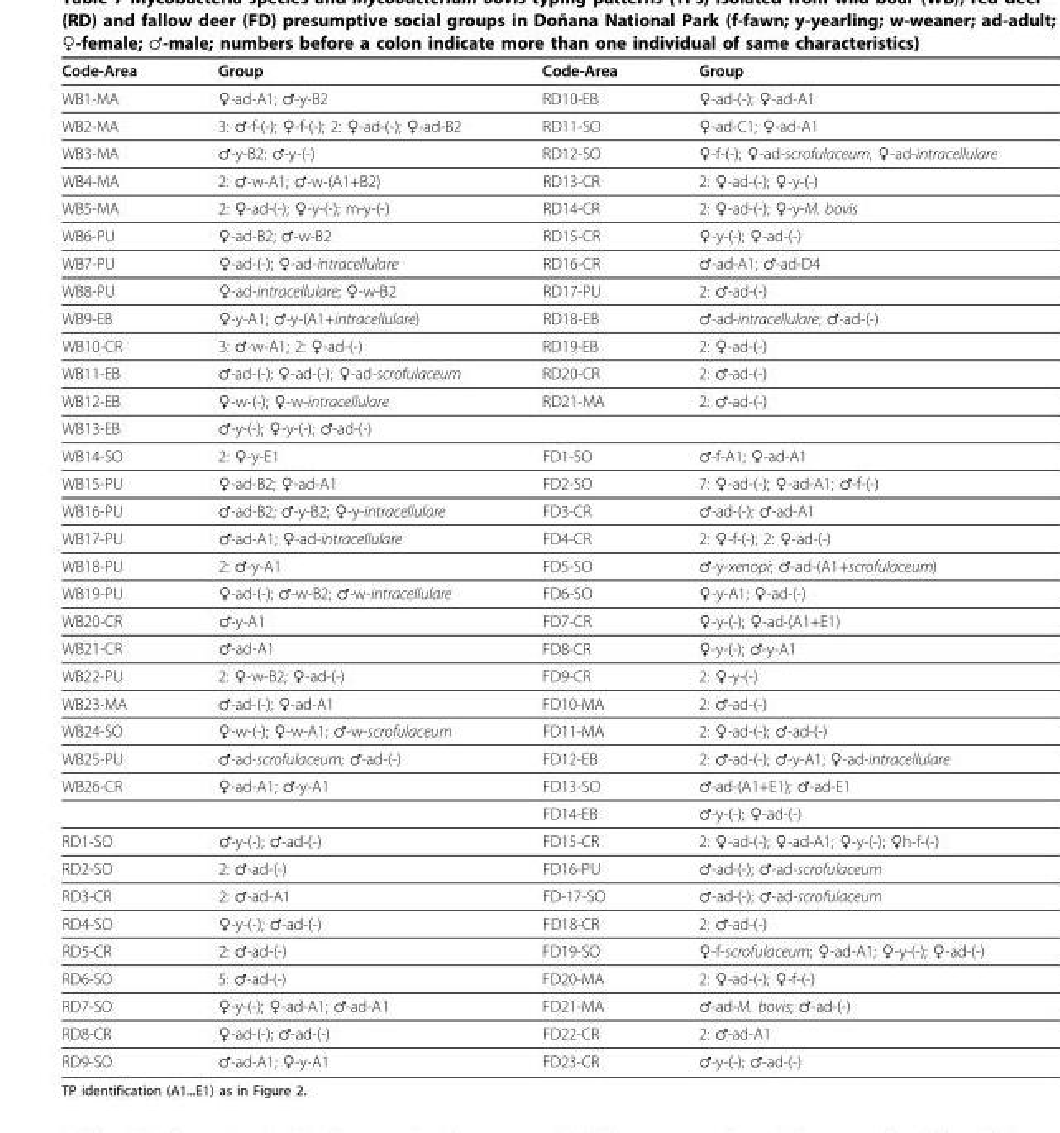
<table><thead><tr><td>Code-Area</td><td>Group</td><td>Code-Area</td><td>Group</td></tr></thead><tbody><tr><td>WB1-MA</td><td>♀-ad-A1; ♂-y-B2</td><td>RD10-EB</td><td>♀-ad-(-); ♀-ad-A1</td></tr><tr><td>WB2-MA</td><td>3: ♂-f-(-); ♀-f-(-); 2: ♀-ad-(-); ♀-ad-B2</td><td>RD11-SO</td><td>♀-ad-C1; ♀-ad-A1</td></tr><tr><td>WB3-MA</td><td>♂-y-B2; ♂-y-(-)</td><td>RD12-SO</td><td>♀-f-(-); ♀-ad-scrofulaceum, ♀-ad-intracellulare</td></tr><tr><td>WB4-MA</td><td>2: ♂-w-A1; ♂-w-(A1+B2)</td><td>RD13-CR</td><td>2: ♀-ad-(-); ♀-y-(-)</td></tr><tr><td>WB5-MA</td><td>2: ♀-ad-(-); ♀-y-(-); m-y-(-)</td><td>RD14-CR</td><td>2: ♀-ad-(-); ♀-y-M. bovis</td></tr><tr><td>WB6-PU</td><td>♀-ad-B2; ♂-w-B2</td><td>RD15-CR</td><td>♀-y-(-); ♀-ad-(-)</td></tr><tr><td>WB7-PU</td><td>♀-ad-(-); ♀-ad-intracellulare</td><td>RD16-CR</td><td>♂-ad-A1; ♂-ad-D4</td></tr><tr><td>WB8-PU</td><td>♀-ad-intracellulare; ♀-w-B2</td><td>RD17-PU</td><td>2: ♂-ad-(-)</td></tr><tr><td>WB9-EB</td><td>♀-y-A1; ♂-y-(A1+intracellulare)</td><td>RD18-EB</td><td>♂-ad-intracellulare; ♂-ad-(-)</td></tr><tr><td>WB10-CR</td><td>3: ♂-w-A1; 2: ♀-ad-(-)</td><td>RD19-EB</td><td>2: ♀-ad-(-)</td></tr><tr><td>WB11-EB</td><td>♂-ad-(-); ♀-ad-(-); ♀-ad-scrofulaceum</td><td>RD20-CR</td><td>2: ♂-ad-(-)</td></tr><tr><td>WB12-EB</td><td>♀-w-(-); ♀-w-intracellulare</td><td>RD21-MA</td><td>2: ♂-ad-(-)</td></tr><tr><td>WB13-EB</td><td>♂-y-(-); ♀-y-(-); ♂-ad-(-)</td><td></td><td></td></tr><tr><td>WB14-SO</td><td>2: ♀-y-E1</td><td>FD1-SO</td><td>♂-f-A1; ♀-ad-A1</td></tr><tr><td>WB15-PU</td><td>♀-ad-B2; ♀-ad-A1</td><td>FD2-SO</td><td>7: ♀-ad-(-); ♀-ad-A1; ♂-f-(-)</td></tr><tr><td>WB16-PU</td><td>♂-ad-B2; ♂-y-B2; ♀-y-intracellulare</td><td>FD3-CR</td><td>♂-ad-(-); ♂-ad-A1</td></tr><tr><td>WB17-PU</td><td>♂-ad-A1; ♀-ad-intracellulare</td><td>FD4-CR</td><td>2: ♀-f-(-); 2: ♀-ad-(-)</td></tr><tr><td>WB18-PU</td><td>2: ♂-y-A1</td><td>FD5-SO</td><td>♂-y-xenopi; ♂-ad-(A1+scrofulaceum)</td></tr><tr><td>WB19-PU</td><td>♀-ad-(-); ♂-w-B2; ♂-w-intracellulare</td><td>FD6-SO</td><td>♀-y-A1; ♀-ad-(-)</td></tr><tr><td>WB20-CR</td><td>♂-y-A1</td><td>FD7-CR</td><td>♀-y-(-); ♀-ad-(A1+E1)</td></tr><tr><td>WB21-CR</td><td>♂-ad-A1</td><td>FD8-CR</td><td>♀-y-(-); ♂-y-A1</td></tr><tr><td>WB22-PU</td><td>2: ♀-w-B2; ♀-ad-(-)</td><td>FD9-CR</td><td>2: ♀-y-(-)</td></tr><tr><td>WB23-MA</td><td>♂-ad-(-); ♀-ad-A1</td><td>FD10-MA</td><td>2: ♂-ad-(-)</td></tr><tr><td>WB24-SO</td><td>♀-w-(-); ♀-w-A1; ♂-w-scrofulaceum</td><td>FD11-MA</td><td>2: ♀-ad-(-); ♂-ad-(-)</td></tr><tr><td>WB25-PU</td><td>♂-ad-scrofulaceum; ♂-ad-(-)</td><td>FD12-EB</td><td>2: ♂-ad-(-); ♂-y-A1; ♀-ad-intracellulare</td></tr><tr><td rowspan="2">WB26-CR</td><td>♀-ad-A1; ♂-y-A1</td><td>FD13-SO</td><td>♂-ad-(A1+E1); ♂-ad-E1</td></tr><tr><td></td><td>FD14-EB</td><td>♂-y-(-); ♀-ad-(-)</td></tr><tr><td>RD1-SO</td><td>♂-y-(-); ♂-ad-(-)</td><td>FD15-CR</td><td>2: ♀-ad-(-); ♀-ad-A1; ♀-y-(-); ♀h-f-(-)</td></tr><tr><td>RD2-SO</td><td>2: ♂-ad-(-)</td><td>FD16-PU</td><td>♂-ad-(-); ♂-ad-scrofulaceum</td></tr><tr><td>RD3-CR</td><td>2: ♂-ad-A1</td><td>FD-17-SO</td><td>♂-ad-(-); ♂-ad-scrofulaceum</td></tr><tr><td>RD4-SO</td><td>♀-y-(-); ♂-ad-(-)</td><td>FD18-CR</td><td>2: ♂-ad-(-)</td></tr><tr><td>RD5-CR</td><td>2: ♂-ad-(-)</td><td>FD19-SO</td><td>♀-f-scrofulaceum; ♀-ad-A1; ♀-y-(-); ♀-ad-(-)</td></tr><tr><td>RD6-SO</td><td>5: ♂-ad-(-)</td><td>FD20-MA</td><td>2: ♀-ad-(-); ♀-f-(-)</td></tr><tr><td>RD7-SO</td><td>♀-y-(-); ♀-ad-A1; ♂-ad-A1</td><td>FD21-MA</td><td>♂-ad-M. bovis; ♂-ad-(-)</td></tr><tr><td>RD8-CR</td><td>♀-ad-(-); ♂-ad-(-)</td><td>FD22-CR</td><td>2: ♂-ad-A1</td></tr><tr><td>RD9-SO</td><td>♂-ad-A1; ♀-y-A1</td><td>FD23-CR</td><td>♂-y-(-); ♂-ad-(-)</td></tr></tbody></table>